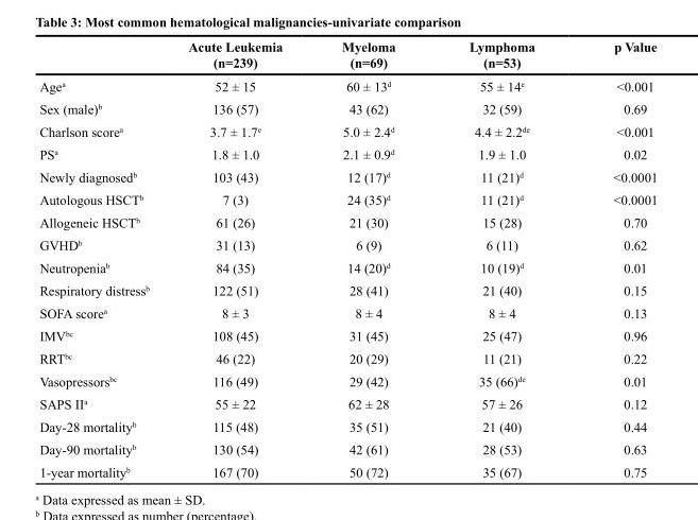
<table><thead><tr><td></td><td>Acute Leukemia (n=239)</td><td>Myeloma (n=69)</td><td>Lymphoma (n=53)</td><td>p Value</td></tr></thead><tbody><tr><td>Age<sup>a</sup></td><td>52 ± 15</td><td>60 ± 13<sup>d</sup></td><td>55 ± 14<sup>e</sup></td><td>&lt;0.001</td></tr><tr><td>Sex (male)<sup>b</sup></td><td>136 (57)</td><td>43 (62)</td><td>32 (59)</td><td>0.69</td></tr><tr><td>Charlson score<sup>a</sup></td><td>3.7 ± 1.7<sup>e</sup></td><td>5.0 ± 2.4<sup>d</sup></td><td>4.4 ± 2.2<sup>de</sup></td><td>&lt;0.001</td></tr><tr><td>PS<sup>a</sup></td><td>1.8 ± 1.0</td><td>2.1 ± 0.9<sup>d</sup></td><td>1.9 ± 1.0</td><td>0.02</td></tr><tr><td>Newly diagnosed<sup>b</sup></td><td>103 (43)</td><td>12 (17)<sup>d</sup></td><td>11 (21)<sup>d</sup></td><td>&lt;0.0001</td></tr><tr><td>Autologous HSCT<sup>b</sup></td><td>7 (3)</td><td>24 (35)<sup>d</sup></td><td>11 (21)<sup>d</sup></td><td>&lt;0.0001</td></tr><tr><td>Allogeneic HSCT<sup>b</sup></td><td>61 (26)</td><td>21 (30)</td><td>15 (28)</td><td>0.70</td></tr><tr><td>GVHD<sup>b</sup></td><td>31 (13)</td><td>6 (9)</td><td>6 (11)</td><td>0.62</td></tr><tr><td>Neutropenia<sup>b</sup></td><td>84 (35)</td><td>14 (20)<sup>d</sup></td><td>10 (19)<sup>d</sup></td><td>0.01</td></tr><tr><td>Respiratory distress<sup>b</sup></td><td>122 (51)</td><td>28 (41)</td><td>21 (40)</td><td>0.15</td></tr><tr><td>SOFA score<sup>a</sup></td><td>8 ± 3</td><td>8 ± 4</td><td>8 ± 4</td><td>0.13</td></tr><tr><td>IMV<sup>bc</sup></td><td>108 (45)</td><td>31 (45)</td><td>25 (47)</td><td>0.96</td></tr><tr><td>RRT<sup>bc</sup></td><td>46 (22)</td><td>20 (29)</td><td>11 (21)</td><td>0.22</td></tr><tr><td>Vasopressors<sup>bc</sup></td><td>116 (49)</td><td>29 (42)</td><td>35 (66)<sup>de</sup></td><td>0.01</td></tr><tr><td>SAPS II<sup>a</sup></td><td>55 ± 22</td><td>62 ± 28</td><td>57 ± 26</td><td>0.12</td></tr><tr><td>Day-28 mortality<sup>b</sup></td><td>115 (48)</td><td>35 (51)</td><td>21 (40)</td><td>0.44</td></tr><tr><td>Day-90 mortality<sup>b</sup></td><td>130 (54)</td><td>42 (61)</td><td>28 (53)</td><td>0.63</td></tr><tr><td>1-year mortality<sup>b</sup></td><td>167 (70)</td><td>50 (72)</td><td>35 (67)</td><td>0.75</td></tr></tbody></table>